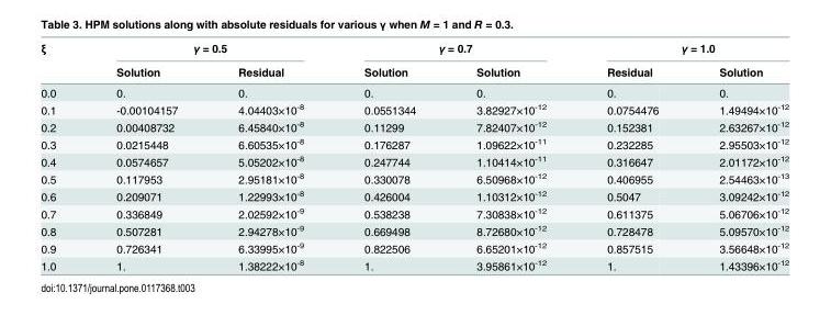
<table><thead><tr><td rowspan="2">ξ</td><td colspan="2">γ = 0.5</td><td colspan="2">γ = 0.7</td><td colspan="2">γ = 1.0</td></tr><tr><td>Solution</td><td>Residual</td><td>Solution</td><td>Solution</td><td>Residual</td><td>Solution</td></tr></thead><tbody><tr><td>0.0</td><td>0.</td><td>0.</td><td>0.</td><td>0.</td><td>0.</td><td>0.</td></tr><tr><td>0.1</td><td>-0.00104157</td><td>4.04403×10<sup>-8</sup></td><td>0.0551344</td><td>3.82927×10<sup>-12</sup></td><td>0.0754476</td><td>1.49494×10<sup>-12</sup></td></tr><tr><td>0.2</td><td>0.00408732</td><td>6.45840×10<sup>-8</sup></td><td>0.11299</td><td>7.82407×10<sup>-12</sup></td><td>0.152381</td><td>2.63267×10<sup>-12</sup></td></tr><tr><td>0.3</td><td>0.0215448</td><td>6.60535×10<sup>-8</sup></td><td>0.176287</td><td>1.09622×10<sup>-11</sup></td><td>0.232285</td><td>2.95503×10<sup>-12</sup></td></tr><tr><td>0.4</td><td>0.0574657</td><td>5.05202×10<sup>-8</sup></td><td>0.247744</td><td>1.10414×10<sup>-11</sup></td><td>0.316647</td><td>2.01172×10<sup>-12</sup></td></tr><tr><td>0.5</td><td>0.117953</td><td>2.95181×10<sup>-8</sup></td><td>0.330078</td><td>6.50968×10<sup>-12</sup></td><td>0.406955</td><td>2.54463×10<sup>-13</sup></td></tr><tr><td>0.6</td><td>0.209071</td><td>1.22993×10<sup>-8</sup></td><td>0.426004</td><td>1.10312×10<sup>-12</sup></td><td>0.5047</td><td>3.09242×10<sup>-12</sup></td></tr><tr><td>0.7</td><td>0.336849</td><td>2.02592×10<sup>-9</sup></td><td>0.538238</td><td>7.30838×10<sup>-12</sup></td><td>0.611375</td><td>5.06706×10<sup>-12</sup></td></tr><tr><td>0.8</td><td>0.507281</td><td>2.94278×10<sup>-9</sup></td><td>0.669498</td><td>8.72680×10<sup>-12</sup></td><td>0.728478</td><td>5.09570×10<sup>-12</sup></td></tr><tr><td>0.9</td><td>0.726341</td><td>6.33995×10<sup>-9</sup></td><td>0.822506</td><td>6.65201×10<sup>-12</sup></td><td>0.857515</td><td>3.56648×10<sup>-12</sup></td></tr><tr><td>1.0</td><td>1.</td><td>1.38222×10<sup>-8</sup></td><td>1.</td><td>3.95861×10<sup>-12</sup></td><td>1.</td><td>1.43396×10<sup>-12</sup></td></tr></tbody></table>